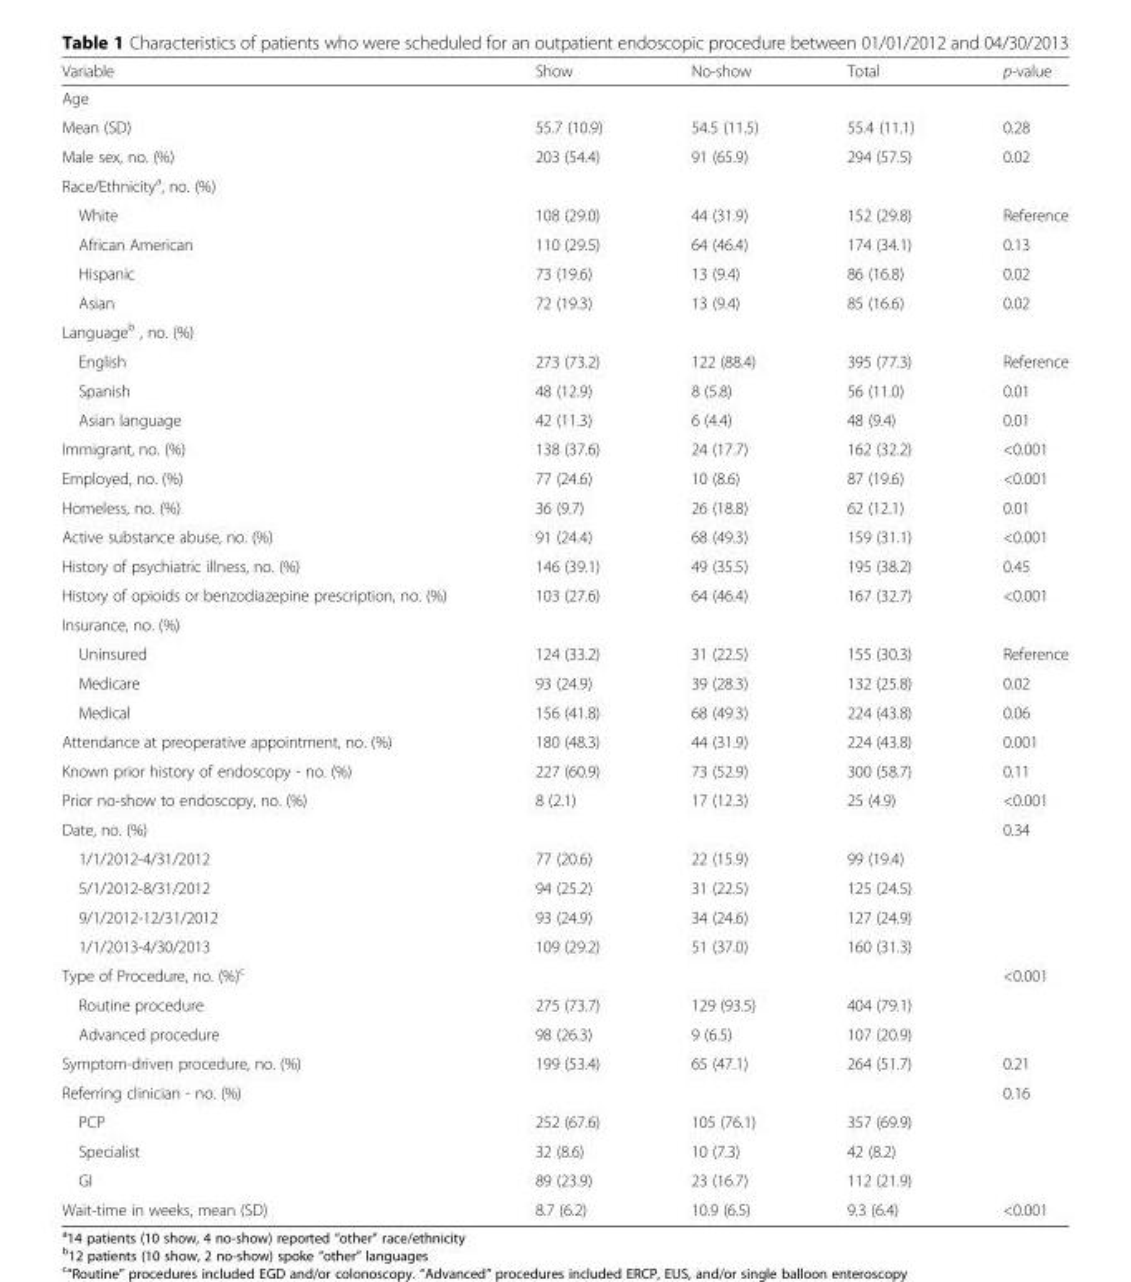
<table><thead><tr><td>Variable</td><td>Show</td><td>No-show</td><td>Total</td><td>p-value</td></tr></thead><tbody><tr><td colspan="5">Age</td></tr><tr><td>Mean (SD)</td><td>55.7 (10.9)</td><td>54.5 (11.5)</td><td>55.4 (11.1)</td><td>0.28</td></tr><tr><td>Male sex, no. (%)</td><td>203 (54.4)</td><td>91 (65.9)</td><td>294 (57.5)</td><td>0.02</td></tr><tr><td colspan="5">Race/Ethnicity<sup>a</sup>, no. (%)</td></tr><tr><td>White</td><td>108 (29.0)</td><td>44 (31.9)</td><td>152 (29.8)</td><td>Reference</td></tr><tr><td>African American</td><td>110 (29.5)</td><td>64 (46.4)</td><td>174 (34.1)</td><td>0.13</td></tr><tr><td>Hispanic</td><td>73 (19.6)</td><td>13 (9.4)</td><td>86 (16.8)</td><td>0.02</td></tr><tr><td>Asian</td><td>72 (19.3)</td><td>13 (9.4)</td><td>85 (16.6)</td><td>0.02</td></tr><tr><td colspan="5">Language<sup>b</sup> , no. (%)</td></tr><tr><td>English</td><td>273 (73.2)</td><td>122 (88.4)</td><td>395 (77.3)</td><td>Reference</td></tr><tr><td>Spanish</td><td>48 (12.9)</td><td>8 (5.8)</td><td>56 (11.0)</td><td>0.01</td></tr><tr><td>Asian language</td><td>42 (11.3)</td><td>6 (4.4)</td><td>48 (9.4)</td><td>0.01</td></tr><tr><td>Immigrant, no. (%)</td><td>138 (37.6)</td><td>24 (17.7)</td><td>162 (32.2)</td><td>&lt;0.001</td></tr><tr><td>Employed, no. (%)</td><td>77 (24.6)</td><td>10 (8.6)</td><td>87 (19.6)</td><td>&lt;0.001</td></tr><tr><td>Homeless, no. (%)</td><td>36 (9.7)</td><td>26 (18.8)</td><td>62 (12.1)</td><td>0.01</td></tr><tr><td>Active substance abuse, no. (%)</td><td>91 (24.4)</td><td>68 (49.3)</td><td>159 (31.1)</td><td>&lt;0.001</td></tr><tr><td>History of psychiatric illness, no. (%)</td><td>146 (39.1)</td><td>49 (35.5)</td><td>195 (38.2)</td><td>0.45</td></tr><tr><td>History of opioids or benzodiazepine prescription, no. (%)</td><td>103 (27.6)</td><td>64 (46.4)</td><td>167 (32.7)</td><td>&lt;0.001</td></tr><tr><td colspan="5">Insurance, no. (%)</td></tr><tr><td>Uninsured</td><td>124 (33.2)</td><td>31 (22.5)</td><td>155 (30.3)</td><td>Reference</td></tr><tr><td>Medicare</td><td>93 (24.9)</td><td>39 (28.3)</td><td>132 (25.8)</td><td>0.02</td></tr><tr><td>Medical</td><td>156 (41.8)</td><td>68 (49.3)</td><td>224 (43.8)</td><td>0.06</td></tr><tr><td>Attendance at preoperative appointment, no. (%)</td><td>180 (48.3)</td><td>44 (31.9)</td><td>224 (43.8)</td><td>0.001</td></tr><tr><td>Known prior history of endoscopy - no. (%)</td><td>227 (60.9)</td><td>73 (52.9)</td><td>300 (58.7)</td><td>0.11</td></tr><tr><td>Prior no-show to endoscopy, no. (%)</td><td>8 (2.1)</td><td>17 (12.3)</td><td>25 (4.9)</td><td>&lt;0.001</td></tr><tr><td>Date, no. (%)</td><td></td><td></td><td></td><td>0.34</td></tr><tr><td>1/1/2012-4/31/2012</td><td>77 (20.6)</td><td>22 (15.9)</td><td>99 (19.4)</td><td></td></tr><tr><td>5/1/2012-8/31/2012</td><td>94 (25.2)</td><td>31 (22.5)</td><td>125 (24.5)</td><td></td></tr><tr><td>9/1/2012-12/31/2012</td><td>93 (24.9)</td><td>34 (24.6)</td><td>127 (24.9)</td><td></td></tr><tr><td>1/1/2013-4/30/2013</td><td>109 (29.2)</td><td>51 (37.0)</td><td>160 (31.3)</td><td></td></tr><tr><td>Type of Procedure, no. (%)<sup>c</sup></td><td></td><td></td><td></td><td>&lt;0.001</td></tr><tr><td>Routine procedure</td><td>275 (73.7)</td><td>129 (93.5)</td><td>404 (79.1)</td><td></td></tr><tr><td>Advanced procedure</td><td>98 (26.3)</td><td>9 (6.5)</td><td>107 (20.9)</td><td></td></tr><tr><td>Symptom-driven procedure, no. (%)</td><td>199 (53.4)</td><td>65 (47.1)</td><td>264 (51.7)</td><td>0.21</td></tr><tr><td>Referring clinician - no. (%)</td><td></td><td></td><td></td><td>0.16</td></tr><tr><td>PCP</td><td>252 (67.6)</td><td>105 (76.1)</td><td>357 (69.9)</td><td></td></tr><tr><td>Specialist</td><td>32 (8.6)</td><td>10 (7.3)</td><td>42 (8.2)</td><td></td></tr><tr><td>GI</td><td>89 (23.9)</td><td>23 (16.7)</td><td>112 (21.9)</td><td></td></tr><tr><td>Wait-time in weeks, mean (SD)</td><td>8.7 (6.2)</td><td>10.9 (6.5)</td><td>9.3 (6.4)</td><td>&lt;0.001</td></tr></tbody></table>